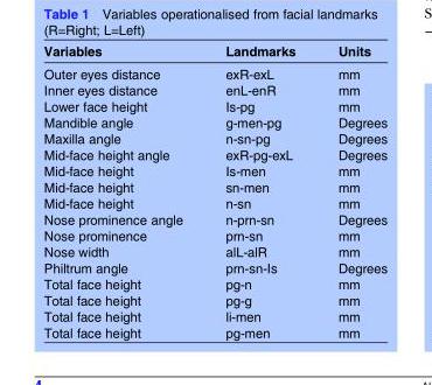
<table><thead><tr><td>Variables</td><td>Landmarks</td><td>Units</td></tr></thead><tbody><tr><td>Outer eyes distance</td><td>exR-exL</td><td>mm</td></tr><tr><td>Inner eyes distance</td><td>enL-enR</td><td>mm</td></tr><tr><td>Lower face height</td><td>Is-pg</td><td>mm</td></tr><tr><td>Mandible angle</td><td>g-men-pg</td><td>Degrees</td></tr><tr><td>Maxilla angle</td><td>n-sn-pg</td><td>Degrees</td></tr><tr><td>Mid-face height angle</td><td>exR-pg-exL</td><td>Degrees</td></tr><tr><td>Mid-face height</td><td>Is-men</td><td>mm</td></tr><tr><td>Mid-face height</td><td>sn-men</td><td>mm</td></tr><tr><td>Mid-face height</td><td>n-sn</td><td>mm</td></tr><tr><td>Nose prominence angle</td><td>n-prn-sn</td><td>Degrees</td></tr><tr><td>Nose prominence</td><td>prn-sn</td><td>mm</td></tr><tr><td>Nose width</td><td>alL-alR</td><td>mm</td></tr><tr><td>Philtrum angle</td><td>prn-sn-Is</td><td>Degrees</td></tr><tr><td>Total face height</td><td>pg-n</td><td>mm</td></tr><tr><td>Total face height</td><td>pg-g</td><td>mm</td></tr><tr><td>Total face height</td><td>li-men</td><td>mm</td></tr><tr><td>Total face height</td><td>pg-men</td><td>mm</td></tr></tbody></table>